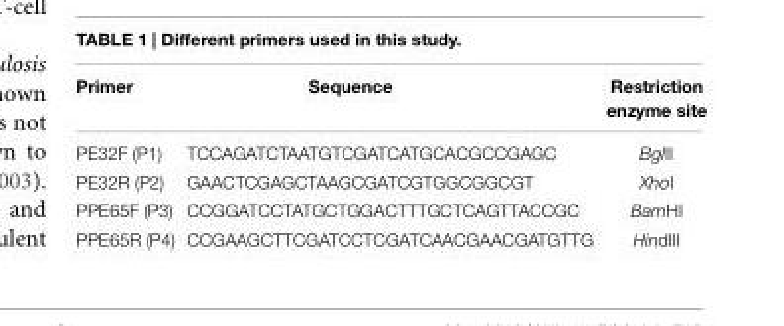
<table><thead><tr><td>Primer</td><td>Sequence</td><td>Restriction enzyme site</td></tr></thead><tbody><tr><td>PE32F (P1)</td><td>TCCAGATCTAATGTCGATCATGCACGCCGAGC</td><td>BglII</td></tr><tr><td>PE32R (P2)</td><td>GAACTCGAGCTAAGCGATCGTGGCGGCGT</td><td>XhoI</td></tr><tr><td>PPE65F (P3)</td><td>CCGGATCCTATGCTGGACTTTGCTCAGTTACCGC</td><td>BamHI</td></tr><tr><td>PPE65R (P4)</td><td>CCGAAGCTTCGATCCTCGATCAACGAACGATGTTG</td><td>HindIII</td></tr></tbody></table>